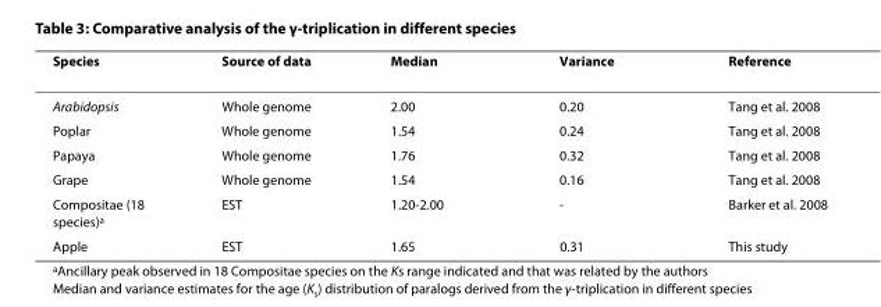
<table><thead><tr><td>Species</td><td>Source of data</td><td>Median</td><td>Variance</td><td>Reference</td></tr></thead><tbody><tr><td>Arabidopsis</td><td>Whole genome</td><td>2.00</td><td>0.20</td><td>Tang et al. 2008</td></tr><tr><td>Poplar</td><td>Whole genome</td><td>1.54</td><td>0.24</td><td>Tang et al. 2008</td></tr><tr><td>Papaya</td><td>Whole genome</td><td>1.76</td><td>0.32</td><td>Tang et al. 2008</td></tr><tr><td>Grape</td><td>Whole genome</td><td>1.54</td><td>0.16</td><td>Tang et al. 2008</td></tr><tr><td>Compositae (18 species)<sup>a</sup></td><td>EST</td><td>1.20-2.00</td><td>-</td><td>Barker et al. 2008</td></tr><tr><td>Apple</td><td>EST</td><td>1.65</td><td>0.31</td><td>This study</td></tr></tbody></table>